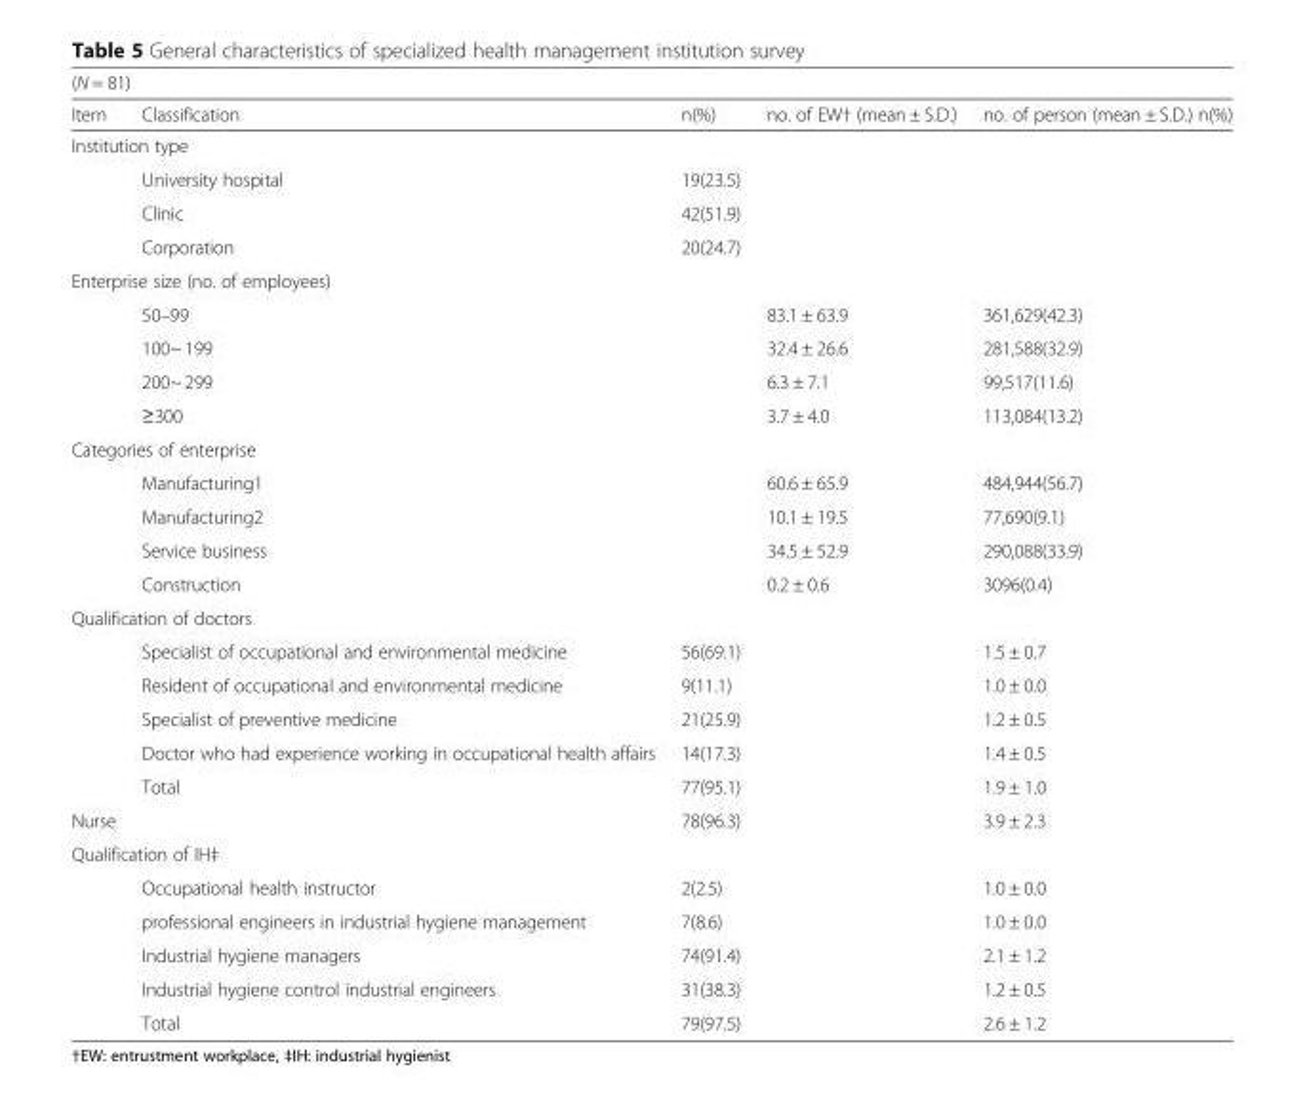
<table><thead><tr><td colspan="5">(N = 81)</td></tr><tr><td>Item</td><td>Classification</td><td>n(%)</td><td>no. of EW† (mean ± S.D.)</td><td>no. of person (mean ± S.D.) n(%)</td></tr></thead><tbody><tr><td colspan="5">Institution type</td></tr><tr><td rowspan="3"></td><td>University hospital</td><td>19(23.5)</td><td></td><td></td></tr><tr><td>Clinic</td><td>42(51.9)</td><td></td><td></td></tr><tr><td>Corporation</td><td>20(24.7)</td><td></td><td></td></tr><tr><td colspan="5">Enterprise size (no. of employees)</td></tr><tr><td rowspan="4"></td><td>50–99</td><td></td><td>83.1 ± 63.9</td><td>361,629(42.3)</td></tr><tr><td>100~ 199</td><td></td><td>32.4 ± 26.6</td><td>281,588(32.9)</td></tr><tr><td>200~ 299</td><td></td><td>6.3 ± 7.1</td><td>99,517(11.6)</td></tr><tr><td>≥300</td><td></td><td>3.7 ± 4.0</td><td>113,084(13.2)</td></tr><tr><td colspan="5">Categories of enterprise</td></tr><tr><td rowspan="4"></td><td>Manufacturing1</td><td></td><td>60.6 ± 65.9</td><td>484,944(56.7)</td></tr><tr><td>Manufacturing2</td><td></td><td>10.1 ± 19.5</td><td>77,690(9.1)</td></tr><tr><td>Service business</td><td></td><td>34.5 ± 52.9</td><td>290,088(33.9)</td></tr><tr><td>Construction</td><td></td><td>0.2 ± 0.6</td><td>3096(0.4)</td></tr><tr><td colspan="5">Qualification of doctors</td></tr><tr><td rowspan="5"></td><td>Specialist of occupational and environmental medicine</td><td>56(69.1)</td><td></td><td>1.5 ± 0.7</td></tr><tr><td>Resident of occupational and environmental medicine</td><td>9(11.1)</td><td></td><td>1.0 ± 0.0</td></tr><tr><td>Specialist of preventive medicine</td><td>21(25.9)</td><td></td><td>1.2 ± 0.5</td></tr><tr><td>Doctor who had experience working in occupational health affairs</td><td>14(17.3)</td><td></td><td>1.4 ± 0.5</td></tr><tr><td>Total</td><td>77(95.1)</td><td></td><td>1.9 ± 1.0</td></tr><tr><td>Nurse</td><td></td><td>78(96.3)</td><td></td><td>3.9 ± 2.3</td></tr><tr><td colspan="5">Qualification of IH‡</td></tr><tr><td rowspan="5"></td><td>Occupational health instructor</td><td>2(2.5)</td><td></td><td>1.0 ± 0.0</td></tr><tr><td>professional engineers in industrial hygiene management</td><td>7(8.6)</td><td></td><td>1.0 ± 0.0</td></tr><tr><td>Industrial hygiene managers</td><td>74(91.4)</td><td></td><td>2.1 ± 1.2</td></tr><tr><td>Industrial hygiene control industrial engineers</td><td>31(38.3)</td><td></td><td>1.2 ± 0.5</td></tr><tr><td>Total</td><td>79(97.5)</td><td></td><td>2.6 ± 1.2</td></tr></tbody></table>